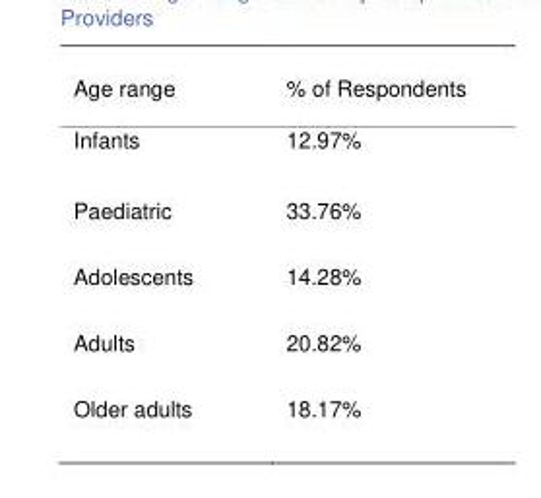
<table><thead><tr><td>Age range</td><td>% of Respondents</td></tr></thead><tbody><tr><td>Infants</td><td>12.97%</td></tr><tr><td>Paediatric</td><td>33.76%</td></tr><tr><td>Adolescents</td><td>14.28%</td></tr><tr><td>Adults</td><td>20.82%</td></tr><tr><td>Older adults</td><td>18.17%</td></tr></tbody></table>